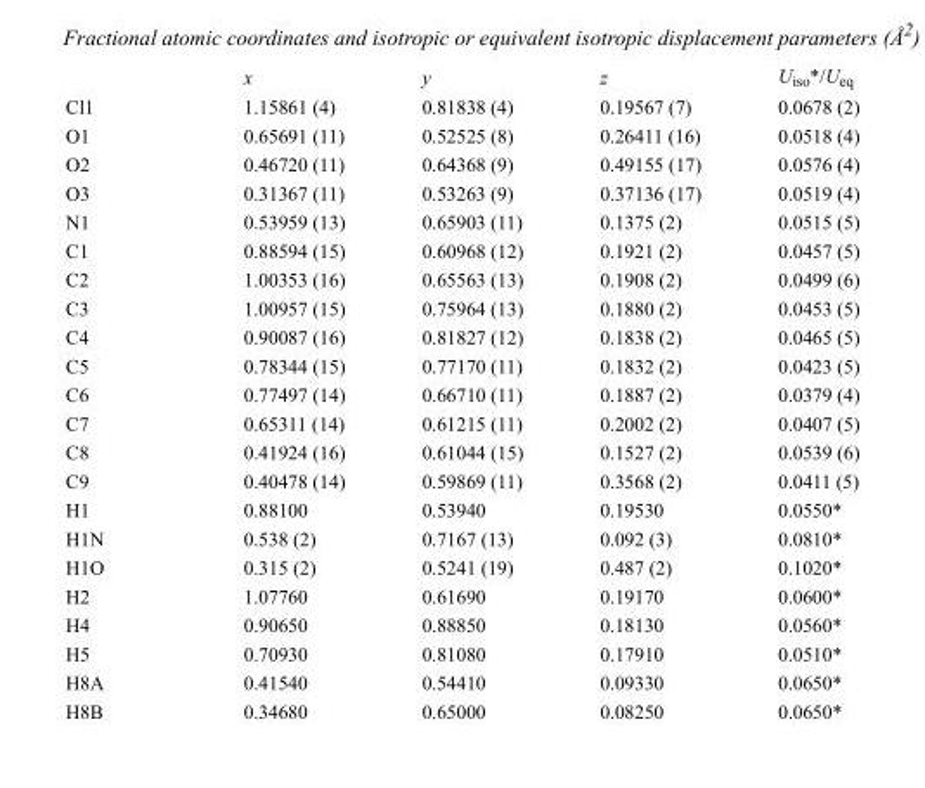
<table><thead><tr><td></td><td>x</td><td>y</td><td>z</td><td>U<sub>iso</sub>*/U<sub>eq</sub></td></tr></thead><tbody><tr><td>Cl1</td><td>1.15861 (4)</td><td>0.81838 (4)</td><td>0.19567 (7)</td><td>0.0678 (2)</td></tr><tr><td>O1</td><td>0.65691 (11)</td><td>0.52525 (8)</td><td>0.26411 (16)</td><td>0.0518 (4)</td></tr><tr><td>O2</td><td>0.46720 (11)</td><td>0.64368 (9)</td><td>0.49155 (17)</td><td>0.0576 (4)</td></tr><tr><td>O3</td><td>0.31367 (11)</td><td>0.53263 (9)</td><td>0.37136 (17)</td><td>0.0519 (4)</td></tr><tr><td>N1</td><td>0.53959 (13)</td><td>0.65903 (11)</td><td>0.1375 (2)</td><td>0.0515 (5)</td></tr><tr><td>C1</td><td>0.88594 (15)</td><td>0.60968 (12)</td><td>0.1921 (2)</td><td>0.0457 (5)</td></tr><tr><td>C2</td><td>1.00353 (16)</td><td>0.65563 (13)</td><td>0.1908 (2)</td><td>0.0499 (6)</td></tr><tr><td>C3</td><td>1.00957 (15)</td><td>0.75964 (13)</td><td>0.1880 (2)</td><td>0.0453 (5)</td></tr><tr><td>C4</td><td>0.90087 (16)</td><td>0.81827 (12)</td><td>0.1838 (2)</td><td>0.0465 (5)</td></tr><tr><td>C5</td><td>0.78344 (15)</td><td>0.77170 (11)</td><td>0.1832 (2)</td><td>0.0423 (5)</td></tr><tr><td>C6</td><td>0.77497 (14)</td><td>0.66710 (11)</td><td>0.1887 (2)</td><td>0.0379 (4)</td></tr><tr><td>C7</td><td>0.65311 (14)</td><td>0.61215 (11)</td><td>0.2002 (2)</td><td>0.0407 (5)</td></tr><tr><td>C8</td><td>0.41924 (16)</td><td>0.61044 (15)</td><td>0.1527 (2)</td><td>0.0539 (6)</td></tr><tr><td>C9</td><td>0.40478 (14)</td><td>0.59869 (11)</td><td>0.3568 (2)</td><td>0.0411 (5)</td></tr><tr><td>H1</td><td>0.88100</td><td>0.53940</td><td>0.19530</td><td>0.0550*</td></tr><tr><td>H1N</td><td>0.538 (2)</td><td>0.7167 (13)</td><td>0.092 (3)</td><td>0.0810*</td></tr><tr><td>H1O</td><td>0.315 (2)</td><td>0.5241 (19)</td><td>0.487 (2)</td><td>0.1020*</td></tr><tr><td>H2</td><td>1.07760</td><td>0.61690</td><td>0.19170</td><td>0.0600*</td></tr><tr><td>H4</td><td>0.90650</td><td>0.88850</td><td>0.18130</td><td>0.0560*</td></tr><tr><td>H5</td><td>0.70930</td><td>0.81080</td><td>0.17910</td><td>0.0510*</td></tr><tr><td>H8A</td><td>0.41540</td><td>0.54410</td><td>0.09330</td><td>0.0650*</td></tr><tr><td>H8B</td><td>0.34680</td><td>0.65000</td><td>0.08250</td><td>0.0650*</td></tr></tbody></table>